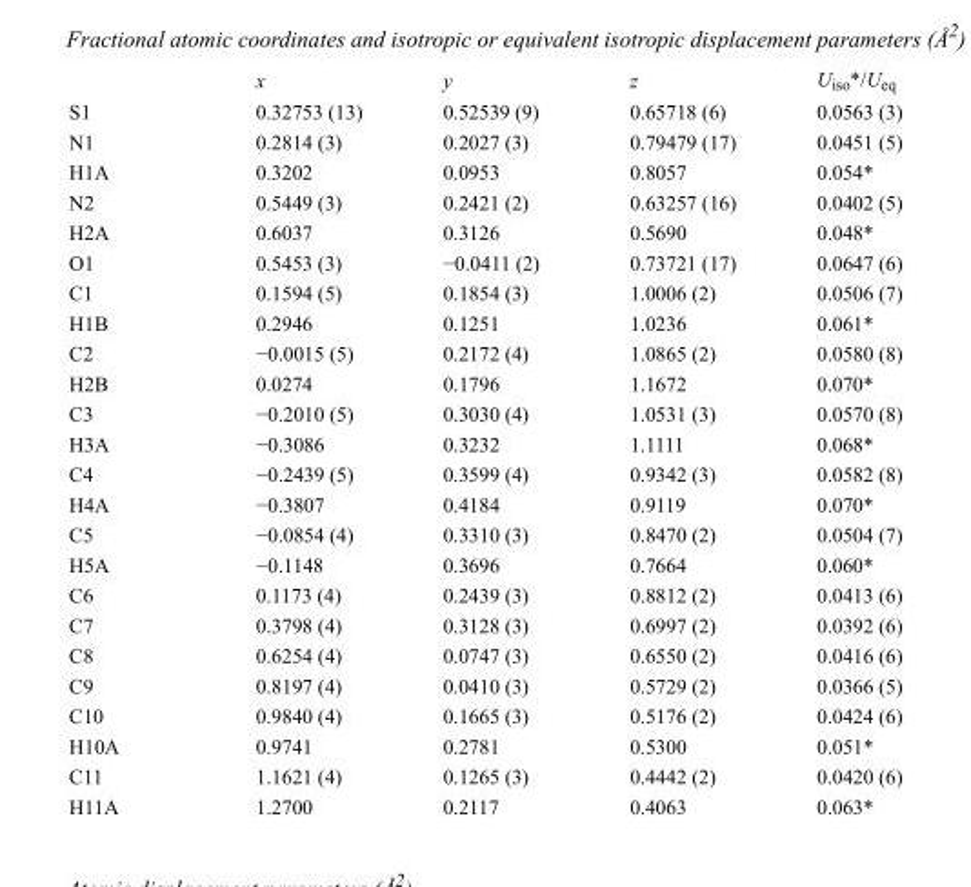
<table><thead><tr><td></td><td>x</td><td>y</td><td>z</td><td>U<sub>iso</sub>*/U<sub>eq</sub></td></tr></thead><tbody><tr><td>S1</td><td>0.32753 (13)</td><td>0.52539 (9)</td><td>0.65718 (6)</td><td>0.0563 (3)</td></tr><tr><td>N1</td><td>0.2814 (3)</td><td>0.2027 (3)</td><td>0.79479 (17)</td><td>0.0451 (5)</td></tr><tr><td>H1A</td><td>0.3202</td><td>0.0953</td><td>0.8057</td><td>0.054*</td></tr><tr><td>N2</td><td>0.5449 (3)</td><td>0.2421 (2)</td><td>0.63257 (16)</td><td>0.0402 (5)</td></tr><tr><td>H2A</td><td>0.6037</td><td>0.3126</td><td>0.5690</td><td>0.048*</td></tr><tr><td>O1</td><td>0.5453 (3)</td><td>−0.0411 (2)</td><td>0.73721 (17)</td><td>0.0647 (6)</td></tr><tr><td>C1</td><td>0.1594 (5)</td><td>0.1854 (3)</td><td>1.0006 (2)</td><td>0.0506 (7)</td></tr><tr><td>H1B</td><td>0.2946</td><td>0.1251</td><td>1.0236</td><td>0.061*</td></tr><tr><td>C2</td><td>−0.0015 (5)</td><td>0.2172 (4)</td><td>1.0865 (2)</td><td>0.0580 (8)</td></tr><tr><td>H2B</td><td>0.0274</td><td>0.1796</td><td>1.1672</td><td>0.070*</td></tr><tr><td>C3</td><td>−0.2010 (5)</td><td>0.3030 (4)</td><td>1.0531 (3)</td><td>0.0570 (8)</td></tr><tr><td>H3A</td><td>−0.3086</td><td>0.3232</td><td>1.1111</td><td>0.068*</td></tr><tr><td>C4</td><td>−0.2439 (5)</td><td>0.3599 (4)</td><td>0.9342 (3)</td><td>0.0582 (8)</td></tr><tr><td>H4A</td><td>−0.3807</td><td>0.4184</td><td>0.9119</td><td>0.070*</td></tr><tr><td>C5</td><td>−0.0854 (4)</td><td>0.3310 (3)</td><td>0.8470 (2)</td><td>0.0504 (7)</td></tr><tr><td>H5A</td><td>−0.1148</td><td>0.3696</td><td>0.7664</td><td>0.060*</td></tr><tr><td>C6</td><td>0.1173 (4)</td><td>0.2439 (3)</td><td>0.8812 (2)</td><td>0.0413 (6)</td></tr><tr><td>C7</td><td>0.3798 (4)</td><td>0.3128 (3)</td><td>0.6997 (2)</td><td>0.0392 (6)</td></tr><tr><td>C8</td><td>0.6254 (4)</td><td>0.0747 (3)</td><td>0.6550 (2)</td><td>0.0416 (6)</td></tr><tr><td>C9</td><td>0.8197 (4)</td><td>0.0410 (3)</td><td>0.5729 (2)</td><td>0.0366 (5)</td></tr><tr><td>C10</td><td>0.9840 (4)</td><td>0.1665 (3)</td><td>0.5176 (2)</td><td>0.0424 (6)</td></tr><tr><td>H10A</td><td>0.9741</td><td>0.2781</td><td>0.5300</td><td>0.051*</td></tr><tr><td>C11</td><td>1.1621 (4)</td><td>0.1265 (3)</td><td>0.4442 (2)</td><td>0.0420 (6)</td></tr><tr><td>H11A</td><td>1.2700</td><td>0.2117</td><td>0.4063</td><td>0.063*</td></tr></tbody></table>